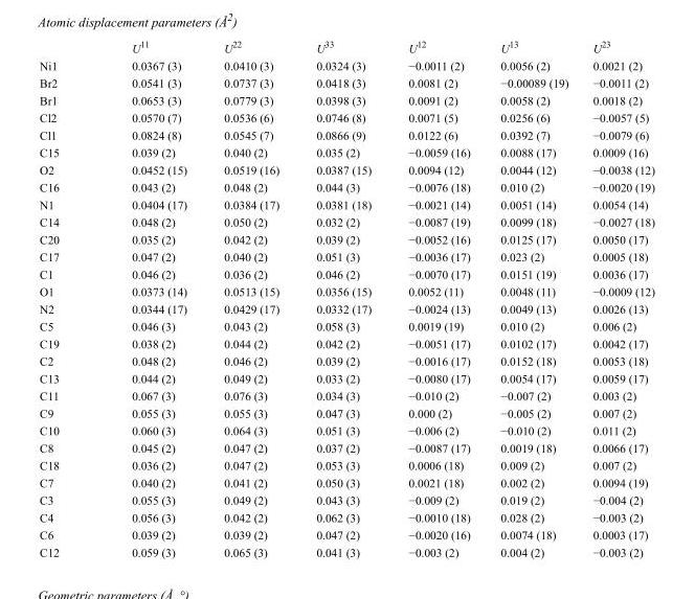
<table><thead><tr><td></td><td>U<sup>11</sup></td><td>U<sup>22</sup></td><td>U<sup>33</sup></td><td>U<sup>12</sup></td><td>U<sup>13</sup></td><td>U<sup>23</sup></td></tr></thead><tbody><tr><td>Ni1</td><td>0.0367 (3)</td><td>0.0410 (3)</td><td>0.0324 (3)</td><td>−0.0011 (2)</td><td>0.0056 (2)</td><td>0.0021 (2)</td></tr><tr><td>Br2</td><td>0.0541 (3)</td><td>0.0737 (3)</td><td>0.0418 (3)</td><td>0.0081 (2)</td><td>−0.00089 (19)</td><td>−0.0011 (2)</td></tr><tr><td>Br1</td><td>0.0653 (3)</td><td>0.0779 (3)</td><td>0.0398 (3)</td><td>0.0091 (2)</td><td>0.0058 (2)</td><td>0.0018 (2)</td></tr><tr><td>Cl2</td><td>0.0570 (7)</td><td>0.0536 (6)</td><td>0.0746 (8)</td><td>0.0071 (5)</td><td>0.0256 (6)</td><td>−0.0057 (5)</td></tr><tr><td>Cl1</td><td>0.0824 (8)</td><td>0.0545 (7)</td><td>0.0866 (9)</td><td>0.0122 (6)</td><td>0.0392 (7)</td><td>−0.0079 (6)</td></tr><tr><td>C15</td><td>0.039 (2)</td><td>0.040 (2)</td><td>0.035 (2)</td><td>−0.0059 (16)</td><td>0.0088 (17)</td><td>0.0009 (16)</td></tr><tr><td>O2</td><td>0.0452 (15)</td><td>0.0519 (16)</td><td>0.0387 (15)</td><td>0.0094 (12)</td><td>0.0044 (12)</td><td>−0.0038 (12)</td></tr><tr><td>C16</td><td>0.043 (2)</td><td>0.048 (2)</td><td>0.044 (3)</td><td>−0.0076 (18)</td><td>0.010 (2)</td><td>−0.0020 (19)</td></tr><tr><td>N1</td><td>0.0404 (17)</td><td>0.0384 (17)</td><td>0.0381 (18)</td><td>−0.0021 (14)</td><td>0.0051 (14)</td><td>0.0054 (14)</td></tr><tr><td>C14</td><td>0.048 (2)</td><td>0.050 (2)</td><td>0.032 (2)</td><td>−0.0087 (19)</td><td>0.0099 (18)</td><td>−0.0027 (18)</td></tr><tr><td>C20</td><td>0.035 (2)</td><td>0.042 (2)</td><td>0.039 (2)</td><td>−0.0052 (16)</td><td>0.0125 (17)</td><td>0.0050 (17)</td></tr><tr><td>C17</td><td>0.047 (2)</td><td>0.040 (2)</td><td>0.051 (3)</td><td>−0.0036 (17)</td><td>0.023 (2)</td><td>0.0005 (18)</td></tr><tr><td>C1</td><td>0.046 (2)</td><td>0.036 (2)</td><td>0.046 (2)</td><td>−0.0070 (17)</td><td>0.0151 (19)</td><td>0.0036 (17)</td></tr><tr><td>O1</td><td>0.0373 (14)</td><td>0.0513 (15)</td><td>0.0356 (15)</td><td>0.0052 (11)</td><td>0.0048 (11)</td><td>−0.0009 (12)</td></tr><tr><td>N2</td><td>0.0344 (17)</td><td>0.0429 (17)</td><td>0.0332 (17)</td><td>−0.0024 (13)</td><td>0.0049 (13)</td><td>0.0026 (13)</td></tr><tr><td>C5</td><td>0.046 (3)</td><td>0.043 (2)</td><td>0.058 (3)</td><td>0.0019 (19)</td><td>0.010 (2)</td><td>0.006 (2)</td></tr><tr><td>C19</td><td>0.038 (2)</td><td>0.044 (2)</td><td>0.042 (2)</td><td>−0.0051 (17)</td><td>0.0102 (17)</td><td>0.0042 (17)</td></tr><tr><td>C2</td><td>0.048 (2)</td><td>0.046 (2)</td><td>0.039 (2)</td><td>−0.0016 (17)</td><td>0.0152 (18)</td><td>0.0053 (18)</td></tr><tr><td>C13</td><td>0.044 (2)</td><td>0.049 (2)</td><td>0.033 (2)</td><td>−0.0080 (17)</td><td>0.0054 (17)</td><td>0.0059 (17)</td></tr><tr><td>C11</td><td>0.067 (3)</td><td>0.076 (3)</td><td>0.034 (3)</td><td>−0.010 (2)</td><td>−0.007 (2)</td><td>0.003 (2)</td></tr><tr><td>C9</td><td>0.055 (3)</td><td>0.055 (3)</td><td>0.047 (3)</td><td>0.000 (2)</td><td>−0.005 (2)</td><td>0.007 (2)</td></tr><tr><td>C10</td><td>0.060 (3)</td><td>0.064 (3)</td><td>0.051 (3)</td><td>−0.006 (2)</td><td>−0.010 (2)</td><td>0.011 (2)</td></tr><tr><td>C8</td><td>0.045 (2)</td><td>0.047 (2)</td><td>0.037 (2)</td><td>−0.0087 (17)</td><td>0.0019 (18)</td><td>0.0066 (17)</td></tr><tr><td>C18</td><td>0.036 (2)</td><td>0.047 (2)</td><td>0.053 (3)</td><td>0.0006 (18)</td><td>0.009 (2)</td><td>0.007 (2)</td></tr><tr><td>C7</td><td>0.040 (2)</td><td>0.041 (2)</td><td>0.050 (3)</td><td>0.0021 (18)</td><td>0.002 (2)</td><td>0.0094 (19)</td></tr><tr><td>C3</td><td>0.055 (3)</td><td>0.049 (2)</td><td>0.043 (3)</td><td>−0.009 (2)</td><td>0.019 (2)</td><td>−0.004 (2)</td></tr><tr><td>C4</td><td>0.056 (3)</td><td>0.042 (2)</td><td>0.062 (3)</td><td>−0.0010 (18)</td><td>0.028 (2)</td><td>−0.003 (2)</td></tr><tr><td>C6</td><td>0.039 (2)</td><td>0.039 (2)</td><td>0.047 (2)</td><td>−0.0020 (16)</td><td>0.0074 (18)</td><td>0.0003 (17)</td></tr><tr><td>C12</td><td>0.059 (3)</td><td>0.065 (3)</td><td>0.041 (3)</td><td>−0.003 (2)</td><td>0.004 (2)</td><td>−0.003 (2)</td></tr></tbody></table>